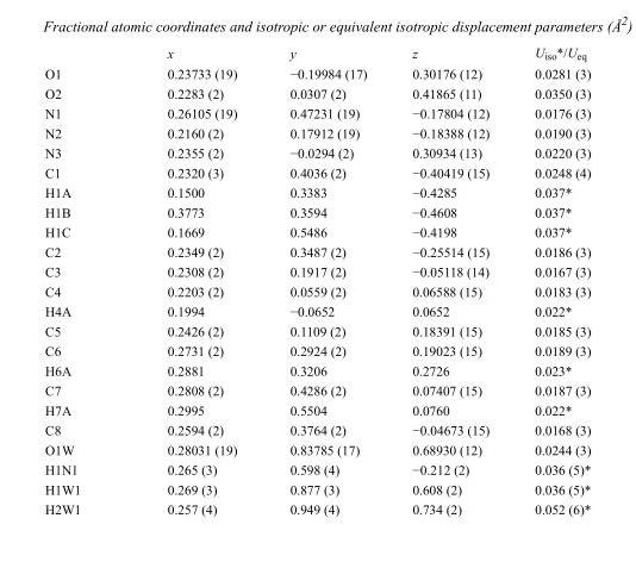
<table><thead><tr><td></td><td>x</td><td>y</td><td>z</td><td>U<sub>iso</sub>*/U<sub>eq</sub></td></tr></thead><tbody><tr><td>O1</td><td>0.23733 (19)</td><td>−0.19984 (17)</td><td>0.30176 (12)</td><td>0.0281 (3)</td></tr><tr><td>O2</td><td>0.2283 (2)</td><td>0.0307 (2)</td><td>0.41865 (11)</td><td>0.0350 (3)</td></tr><tr><td>N1</td><td>0.26105 (19)</td><td>0.47231 (19)</td><td>−0.17804 (12)</td><td>0.0176 (3)</td></tr><tr><td>N2</td><td>0.2160 (2)</td><td>0.17912 (19)</td><td>−0.18388 (12)</td><td>0.0190 (3)</td></tr><tr><td>N3</td><td>0.2355 (2)</td><td>−0.0294 (2)</td><td>0.30934 (13)</td><td>0.0220 (3)</td></tr><tr><td>C1</td><td>0.2320 (3)</td><td>0.4036 (2)</td><td>−0.40419 (15)</td><td>0.0248 (4)</td></tr><tr><td>H1A</td><td>0.1500</td><td>0.3383</td><td>−0.4285</td><td>0.037*</td></tr><tr><td>H1B</td><td>0.3773</td><td>0.3594</td><td>−0.4608</td><td>0.037*</td></tr><tr><td>H1C</td><td>0.1669</td><td>0.5486</td><td>−0.4198</td><td>0.037*</td></tr><tr><td>C2</td><td>0.2349 (2)</td><td>0.3487 (2)</td><td>−0.25514 (15)</td><td>0.0186 (3)</td></tr><tr><td>C3</td><td>0.2308 (2)</td><td>0.1917 (2)</td><td>−0.05118 (14)</td><td>0.0167 (3)</td></tr><tr><td>C4</td><td>0.2203 (2)</td><td>0.0559 (2)</td><td>0.06588 (15)</td><td>0.0183 (3)</td></tr><tr><td>H4A</td><td>0.1994</td><td>−0.0652</td><td>0.0652</td><td>0.022*</td></tr><tr><td>C5</td><td>0.2426 (2)</td><td>0.1109 (2)</td><td>0.18391 (15)</td><td>0.0185 (3)</td></tr><tr><td>C6</td><td>0.2731 (2)</td><td>0.2924 (2)</td><td>0.19023 (15)</td><td>0.0189 (3)</td></tr><tr><td>H6A</td><td>0.2881</td><td>0.3206</td><td>0.2726</td><td>0.023*</td></tr><tr><td>C7</td><td>0.2808 (2)</td><td>0.4286 (2)</td><td>0.07407 (15)</td><td>0.0187 (3)</td></tr><tr><td>H7A</td><td>0.2995</td><td>0.5504</td><td>0.0760</td><td>0.022*</td></tr><tr><td>C8</td><td>0.2594 (2)</td><td>0.3764 (2)</td><td>−0.04673 (15)</td><td>0.0168 (3)</td></tr><tr><td>O1W</td><td>0.28031 (19)</td><td>0.83785 (17)</td><td>0.68930 (12)</td><td>0.0244 (3)</td></tr><tr><td>H1N1</td><td>0.265 (3)</td><td>0.598 (4)</td><td>−0.212 (2)</td><td>0.036 (5)*</td></tr><tr><td>H1W1</td><td>0.269 (3)</td><td>0.877 (3)</td><td>0.608 (2)</td><td>0.036 (5)*</td></tr><tr><td>H2W1</td><td>0.257 (4)</td><td>0.949 (4)</td><td>0.734 (2)</td><td>0.052 (6)*</td></tr></tbody></table>